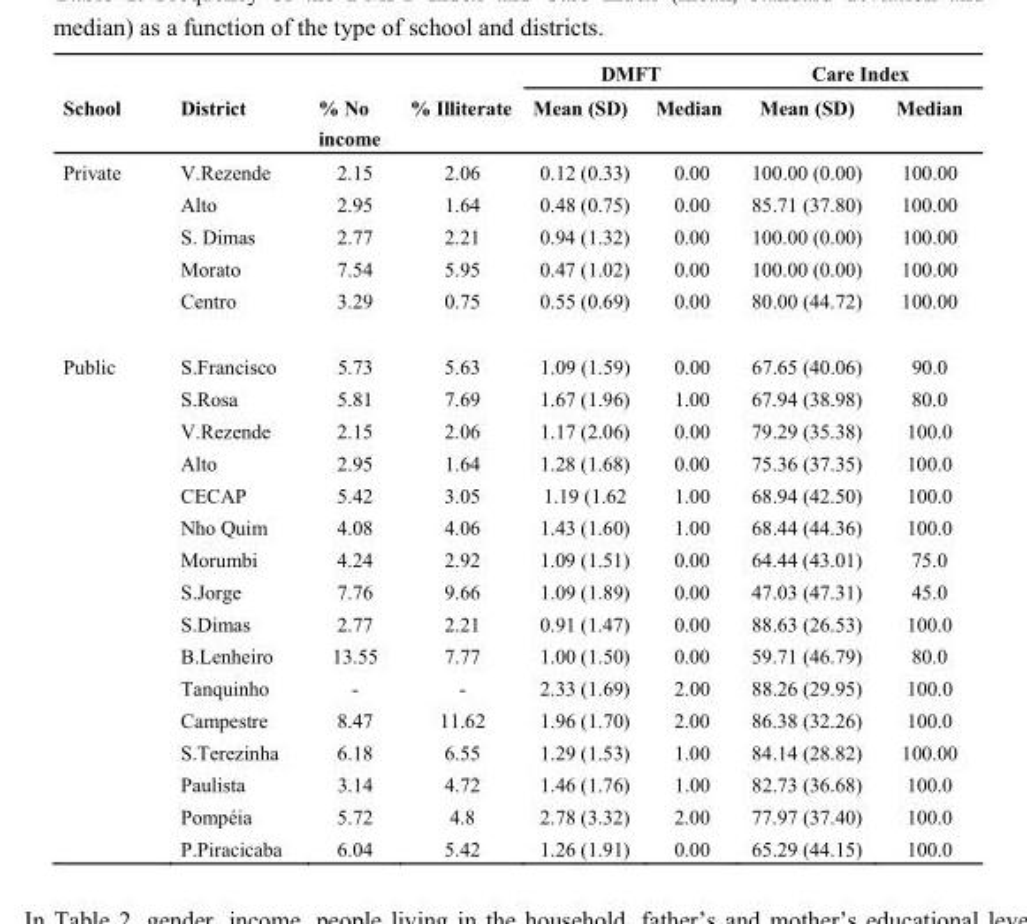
<table><thead><tr><td rowspan="2">School</td><td rowspan="2">District</td><td rowspan="2">% No income</td><td rowspan="2">% Illiterate</td><td colspan="2">DMFT</td><td colspan="2">Care Index</td></tr><tr><td>Mean (SD)</td><td>Median</td><td>Mean (SD)</td><td>Median</td></tr></thead><tbody><tr><td rowspan="5">Private</td><td>V.Rezende</td><td>2.15</td><td>2.06</td><td>0.12 (0.33)</td><td>0.00</td><td>100.00 (0.00)</td><td>100.00</td></tr><tr><td>Alto</td><td>2.95</td><td>1.64</td><td>0.48 (0.75)</td><td>0.00</td><td>85.71 (37.80)</td><td>100.00</td></tr><tr><td>S. Dimas</td><td>2.77</td><td>2.21</td><td>0.94 (1.32)</td><td>0.00</td><td>100.00 (0.00)</td><td>100.00</td></tr><tr><td>Morato</td><td>7.54</td><td>5.95</td><td>0.47 (1.02)</td><td>0.00</td><td>100.00 (0.00)</td><td>100.00</td></tr><tr><td>Centro</td><td>3.29</td><td>0.75</td><td>0.55 (0.69)</td><td>0.00</td><td>80.00 (44.72)</td><td>100.00</td></tr><tr><td rowspan="16">Public</td><td>S.Francisco</td><td>5.73</td><td>5.63</td><td>1.09 (1.59)</td><td>0.00</td><td>67.65 (40.06)</td><td>90.0</td></tr><tr><td>S.Rosa</td><td>5.81</td><td>7.69</td><td>1.67 (1.96)</td><td>1.00</td><td>67.94 (38.98)</td><td>80.0</td></tr><tr><td>V.Rezende</td><td>2.15</td><td>2.06</td><td>1.17 (2.06)</td><td>0.00</td><td>79.29 (35.38)</td><td>100.0</td></tr><tr><td>Alto</td><td>2.95</td><td>1.64</td><td>1.28 (1.68)</td><td>0.00</td><td>75.36 (37.35)</td><td>100.0</td></tr><tr><td>CECAP</td><td>5.42</td><td>3.05</td><td>1.19 (1.62</td><td>1.00</td><td>68.94 (42.50)</td><td>100.0</td></tr><tr><td>Nho Quim</td><td>4.08</td><td>4.06</td><td>1.43 (1.60)</td><td>1.00</td><td>68.44 (44.36)</td><td>100.0</td></tr><tr><td>Morumbi</td><td>4.24</td><td>2.92</td><td>1.09 (1.51)</td><td>0.00</td><td>64.44 (43.01)</td><td>75.0</td></tr><tr><td>S.Jorge</td><td>7.76</td><td>9.66</td><td>1.09 (1.89)</td><td>0.00</td><td>47.03 (47.31)</td><td>45.0</td></tr><tr><td>S.Dimas</td><td>2.77</td><td>2.21</td><td>0.91 (1.47)</td><td>0.00</td><td>88.63 (26.53)</td><td>100.0</td></tr><tr><td>B.Lenheiro</td><td>13.55</td><td>7.77</td><td>1.00 (1.50)</td><td>0.00</td><td>59.71 (46.79)</td><td>80.0</td></tr><tr><td>Tanquinho</td><td>-</td><td>-</td><td>2.33 (1.69)</td><td>2.00</td><td>88.26 (29.95)</td><td>100.0</td></tr><tr><td>Campestre</td><td>8.47</td><td>11.62</td><td>1.96 (1.70)</td><td>2.00</td><td>86.38 (32.26)</td><td>100.0</td></tr><tr><td>S.Terezinha</td><td>6.18</td><td>6.55</td><td>1.29 (1.53)</td><td>1.00</td><td>84.14 (28.82)</td><td>100.00</td></tr><tr><td>Paulista</td><td>3.14</td><td>4.72</td><td>1.46 (1.76)</td><td>1.00</td><td>82.73 (36.68)</td><td>100.0</td></tr><tr><td>Pompéia</td><td>5.72</td><td>4.8</td><td>2.78 (3.32)</td><td>2.00</td><td>77.97 (37.40)</td><td>100.0</td></tr><tr><td>P.Piracicaba</td><td>6.04</td><td>5.42</td><td>1.26 (1.91)</td><td>0.00</td><td>65.29 (44.15)</td><td>100.0</td></tr></tbody></table>